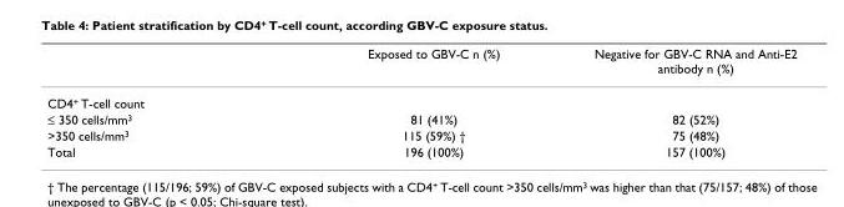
<table><thead><tr><td></td><td>Exposed to GBV-C n (%)</td><td>Negative for GBV-C RNA and Anti-E2 antibody n (%)</td></tr></thead><tbody><tr><td colspan="3">CD4<sup>+</sup> T-cell count</td></tr><tr><td>≤ 350 cells/mm<sup>3</sup></td><td>81 (41%)</td><td>82 (52%)</td></tr><tr><td>&gt;350 cells/mm<sup>3</sup></td><td>115 (59%) †</td><td>75 (48%)</td></tr><tr><td>Total</td><td>196 (100%)</td><td>157 (100%)</td></tr></tbody></table>